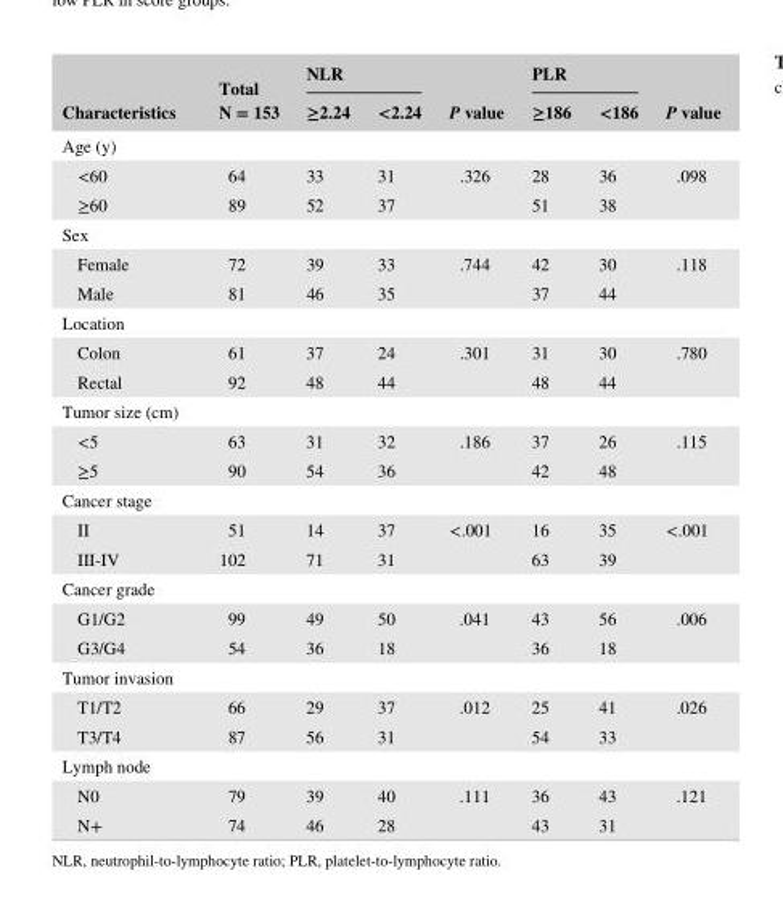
<table><thead><tr><td rowspan="2">Characteristics</td><td rowspan="2">Total N = 153</td><td colspan="2">NLR</td><td rowspan="2">P value</td><td colspan="2">PLR</td><td rowspan="2">P value</td></tr><tr><td>≥2.24</td><td>&lt;2.24</td><td>≥186</td><td>&lt;186</td></tr></thead><tbody><tr><td colspan="8">Age (y)</td></tr><tr><td>&lt;60</td><td>64</td><td>33</td><td>31</td><td rowspan="2">.326</td><td>28</td><td>36</td><td rowspan="2">.098</td></tr><tr><td>≥60</td><td>89</td><td>52</td><td>37</td><td>51</td><td>38</td></tr><tr><td colspan="8">Sex</td></tr><tr><td>Female</td><td>72</td><td>39</td><td>33</td><td rowspan="2">.744</td><td>42</td><td>30</td><td rowspan="2">.118</td></tr><tr><td>Male</td><td>81</td><td>46</td><td>35</td><td>37</td><td>44</td></tr><tr><td colspan="8">Location</td></tr><tr><td>Colon</td><td>61</td><td>37</td><td>24</td><td rowspan="2">.301</td><td>31</td><td>30</td><td rowspan="2">.780</td></tr><tr><td>Rectal</td><td>92</td><td>48</td><td>44</td><td>48</td><td>44</td></tr><tr><td colspan="8">Tumor size (cm)</td></tr><tr><td>&lt;5</td><td>63</td><td>31</td><td>32</td><td rowspan="2">.186</td><td>37</td><td>26</td><td rowspan="2">.115</td></tr><tr><td>≥5</td><td>90</td><td>54</td><td>36</td><td>42</td><td>48</td></tr><tr><td colspan="8">Cancer stage</td></tr><tr><td>II</td><td>51</td><td>14</td><td>37</td><td rowspan="2">&lt;.001</td><td>16</td><td>35</td><td rowspan="2">&lt;.001</td></tr><tr><td>III- IV</td><td>102</td><td>71</td><td>31</td><td>63</td><td>39</td></tr><tr><td colspan="8">Cancer grade</td></tr><tr><td>G1/G2</td><td>99</td><td>49</td><td>50</td><td rowspan="2">.041</td><td>43</td><td>56</td><td rowspan="2">.006</td></tr><tr><td>G3/G4</td><td>54</td><td>36</td><td>18</td><td>36</td><td>18</td></tr><tr><td colspan="8">Tumor invasion</td></tr><tr><td>T1/T2</td><td>66</td><td>29</td><td>37</td><td rowspan="2">.012</td><td>25</td><td>41</td><td rowspan="2">.026</td></tr><tr><td>T3/T4</td><td>87</td><td>56</td><td>31</td><td>54</td><td>33</td></tr><tr><td colspan="8">Lymph node</td></tr><tr><td>N0</td><td>79</td><td>39</td><td>40</td><td rowspan="2">.111</td><td>36</td><td>43</td><td rowspan="2">.121</td></tr><tr><td>N+</td><td>74</td><td>46</td><td>28</td><td>43</td><td>31</td></tr></tbody></table>